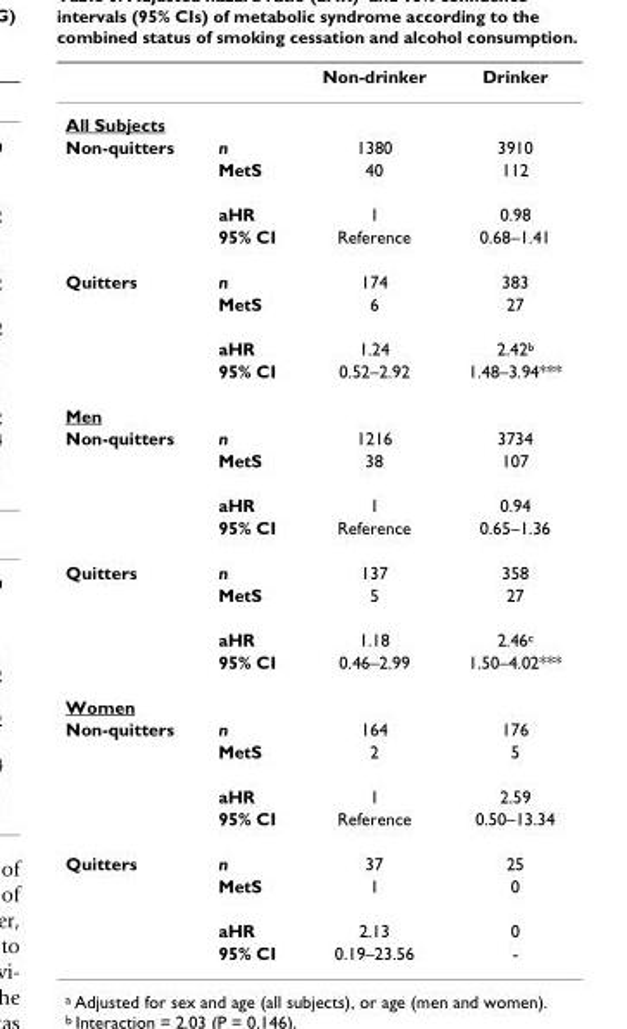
<table><thead><tr><td></td><td></td><td>Non-drinker</td><td>Drinker</td></tr></thead><tbody><tr><td colspan="4">All Subjects</td></tr><tr><td rowspan="4">Non-quitters</td><td>n</td><td>1380</td><td>3910</td></tr><tr><td>MetS</td><td>40</td><td>112</td></tr><tr><td>aHR</td><td>1</td><td>0.98</td></tr><tr><td>95% CI</td><td>Reference</td><td>0.68–1.41</td></tr><tr><td rowspan="4">Quitters</td><td>n</td><td>174</td><td>383</td></tr><tr><td>MetS</td><td>6</td><td>27</td></tr><tr><td>aHR</td><td>1.24</td><td>2.42<sup>b</sup></td></tr><tr><td>95% CI</td><td>0.52–2.92</td><td>1.48–3.94***</td></tr><tr><td colspan="4">Men</td></tr><tr><td rowspan="4">Non-quitters</td><td>n</td><td>1216</td><td>3734</td></tr><tr><td>MetS</td><td>38</td><td>107</td></tr><tr><td>aHR</td><td>1</td><td>0.94</td></tr><tr><td>95% CI</td><td>Reference</td><td>0.65–1.36</td></tr><tr><td rowspan="4">Quitters</td><td>n</td><td>137</td><td>358</td></tr><tr><td>MetS</td><td>5</td><td>27</td></tr><tr><td>aHR</td><td>1.18</td><td>2.46<sup>c</sup></td></tr><tr><td>95% CI</td><td>0.46–2.99</td><td>1.50–4.02***</td></tr><tr><td colspan="4">Women</td></tr><tr><td rowspan="4">Non-quitters</td><td>n</td><td>164</td><td>176</td></tr><tr><td>MetS</td><td>2</td><td>5</td></tr><tr><td>aHR</td><td>1</td><td>2.59</td></tr><tr><td>95% CI</td><td>Reference</td><td>0.50–13.34</td></tr><tr><td rowspan="4">Quitters</td><td>n</td><td>37</td><td>25</td></tr><tr><td>MetS</td><td>1</td><td>0</td></tr><tr><td>aHR</td><td>2.13</td><td>0</td></tr><tr><td>95% CI</td><td>0.19–23.56</td><td>-</td></tr></tbody></table>